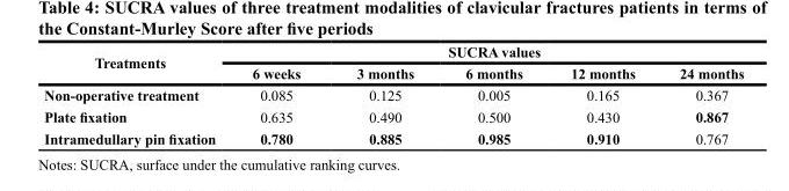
<table><thead><tr><td rowspan="2">Treatments</td><td colspan="5">SUCRA values</td></tr><tr><td>6 weeks</td><td>3 months</td><td>6 months</td><td>12 months</td><td>24 months</td></tr></thead><tbody><tr><td>Non-operative treatment</td><td>0.085</td><td>0.125</td><td>0.005</td><td>0.165</td><td>0.367</td></tr><tr><td>Plate fixation</td><td>0.635</td><td>0.490</td><td>0.500</td><td>0.430</td><td>0.867</td></tr><tr><td>Intramedullary pin fixation</td><td>0.780</td><td>0.885</td><td>0.985</td><td>0.910</td><td>0.767</td></tr></tbody></table>